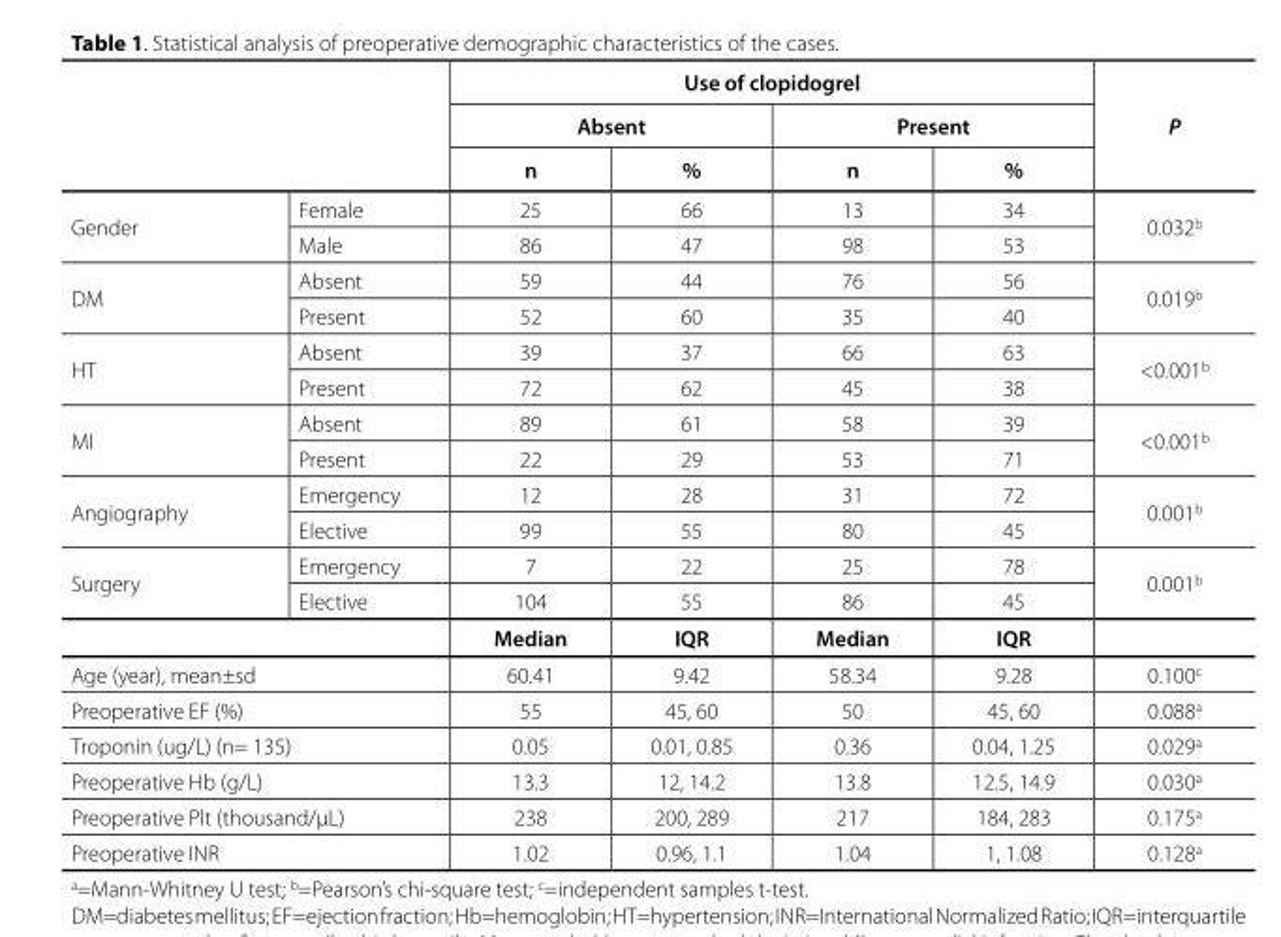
<table><thead><tr><td rowspan="3"></td><td rowspan="3"></td><td colspan="4">Use of clopidogrel</td><td rowspan="3">P</td></tr><tr><td colspan="2">Absent</td><td colspan="2">Present</td></tr><tr><td>n</td><td>%</td><td>n</td><td>%</td></tr></thead><tbody><tr><td rowspan="2">Gender</td><td>Female</td><td>25</td><td>66</td><td>13</td><td>34</td><td rowspan="2">0.032<sup>b</sup></td></tr><tr><td>Male</td><td>86</td><td>47</td><td>98</td><td>53</td></tr><tr><td rowspan="2">DM</td><td>Absent</td><td>59</td><td>44</td><td>76</td><td>56</td><td rowspan="2">0.019<sup>b</sup></td></tr><tr><td>Present</td><td>52</td><td>60</td><td>35</td><td>40</td></tr><tr><td rowspan="2">HT</td><td>Absent</td><td>39</td><td>37</td><td>66</td><td>63</td><td rowspan="2">&lt;0.001<sup>b</sup></td></tr><tr><td>Present</td><td>72</td><td>62</td><td>45</td><td>38</td></tr><tr><td rowspan="2">MI</td><td>Absent</td><td>89</td><td>61</td><td>58</td><td>39</td><td rowspan="2">&lt;0.001<sup>b</sup></td></tr><tr><td>Present</td><td>22</td><td>29</td><td>53</td><td>71</td></tr><tr><td rowspan="2">Angiography</td><td>Emergency</td><td>12</td><td>28</td><td>31</td><td>72</td><td rowspan="2">0.001<sup>b</sup></td></tr><tr><td>Elective</td><td>99</td><td>55</td><td>80</td><td>45</td></tr><tr><td rowspan="2">Surgery</td><td>Emergency</td><td>7</td><td>22</td><td>25</td><td>78</td><td rowspan="2">0.001<sup>b</sup></td></tr><tr><td>Elective</td><td>104</td><td>55</td><td>86</td><td>45</td></tr><tr><td colspan="2"></td><td>Median</td><td>IQR</td><td>Median</td><td>IQR</td><td></td></tr><tr><td colspan="2">Age (year), mean±sd</td><td>60.41</td><td>9.42</td><td>58.34</td><td>9.28</td><td>0.100<sup>c</sup></td></tr><tr><td colspan="2">Preoperative EF (%)</td><td>55</td><td>45, 60</td><td>50</td><td>45, 60</td><td>0.088<sup>a</sup></td></tr><tr><td colspan="2">Troponin (ug/L) (n= 135)</td><td>0.05</td><td>0.01, 0.85</td><td>0.36</td><td>0.04, 1.25</td><td>0.029<sup>a</sup></td></tr><tr><td colspan="2">Preoperative Hb (g/L)</td><td>13.3</td><td>12, 14.2</td><td>13.8</td><td>12.5, 14.9</td><td>0.030<sup>a</sup></td></tr><tr><td colspan="2">Preoperative Plt (thousand/μL)</td><td>238</td><td>200, 289</td><td>217</td><td>184, 283</td><td>0.175<sup>a</sup></td></tr><tr><td colspan="2">Preoperative INR</td><td>1.02</td><td>0.96, 1.1</td><td>1.04</td><td>1, 1.08</td><td>0.128<sup>a</sup></td></tr></tbody></table>